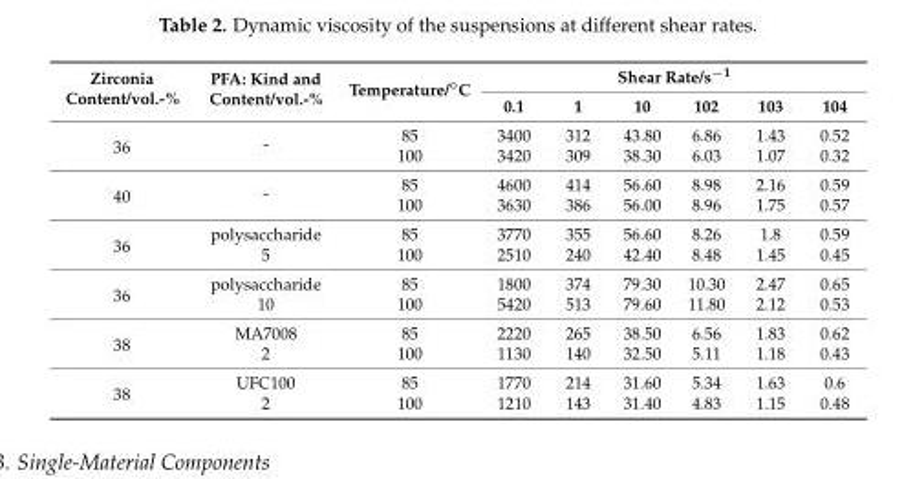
<table><thead><tr><td rowspan="2">Zirconia Content/vol.-%</td><td rowspan="2">PFA: Kind and Content/vol.-%</td><td rowspan="2">Temperature/◦C</td><td colspan="6">Shear Rate/s<sup>−1</sup></td></tr><tr><td>0.1</td><td>1</td><td>10</td><td>102</td><td>103</td><td>104</td></tr></thead><tbody><tr><td rowspan="2">36</td><td rowspan="2">-</td><td>85</td><td>3400</td><td>312</td><td>43.80</td><td>6.86</td><td>1.43</td><td>0.52</td></tr><tr><td>100</td><td>3420</td><td>309</td><td>38.30</td><td>6.03</td><td>1.07</td><td>0.32</td></tr><tr><td rowspan="2">40</td><td rowspan="2">-</td><td>85</td><td>4600</td><td>414</td><td>56.60</td><td>8.98</td><td>2.16</td><td>0.59</td></tr><tr><td>100</td><td>3630</td><td>386</td><td>56.00</td><td>8.96</td><td>1.75</td><td>0.57</td></tr><tr><td rowspan="2">36</td><td>polysaccharide</td><td>85</td><td>3770</td><td>355</td><td>56.60</td><td>8.26</td><td>1.8</td><td>0.59</td></tr><tr><td>5</td><td>100</td><td>2510</td><td>240</td><td>42.40</td><td>8.48</td><td>1.45</td><td>0.45</td></tr><tr><td rowspan="2">36</td><td>polysaccharide</td><td>85</td><td>1800</td><td>374</td><td>79.30</td><td>10.30</td><td>2.47</td><td>0.65</td></tr><tr><td>10</td><td>100</td><td>5420</td><td>513</td><td>79.60</td><td>11.80</td><td>2.12</td><td>0.53</td></tr><tr><td rowspan="2">38</td><td>MA7008</td><td>85</td><td>2220</td><td>265</td><td>38.50</td><td>6.56</td><td>1.83</td><td>0.62</td></tr><tr><td>2</td><td>100</td><td>1130</td><td>140</td><td>32.50</td><td>5.11</td><td>1.18</td><td>0.43</td></tr><tr><td rowspan="2">38</td><td>UFC100</td><td>85</td><td>1770</td><td>214</td><td>31.60</td><td>5.34</td><td>1.63</td><td>0.6</td></tr><tr><td>2</td><td>100</td><td>1210</td><td>143</td><td>31.40</td><td>4.83</td><td>1.15</td><td>0.48</td></tr></tbody></table>